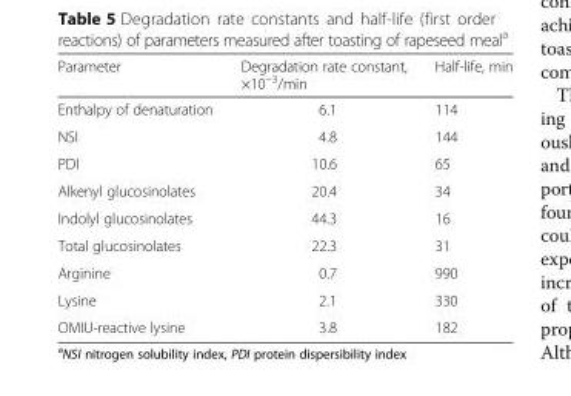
<table><thead><tr><td>Parameter</td><td>Degradation rate constant, ×10<sup>−3</sup>/min</td><td>Half-life, min</td></tr></thead><tbody><tr><td>Enthalpy of denaturation</td><td>6.1</td><td>114</td></tr><tr><td>NSI</td><td>4.8</td><td>144</td></tr><tr><td>PDI</td><td>10.6</td><td>65</td></tr><tr><td>Alkenyl glucosinolates</td><td>20.4</td><td>34</td></tr><tr><td>Indolyl glucosinolates</td><td>44.3</td><td>16</td></tr><tr><td>Total glucosinolates</td><td>22.3</td><td>31</td></tr><tr><td>Arginine</td><td>0.7</td><td>990</td></tr><tr><td>Lysine</td><td>2.1</td><td>330</td></tr><tr><td>OMIU-reactive lysine</td><td>3.8</td><td>182</td></tr></tbody></table>